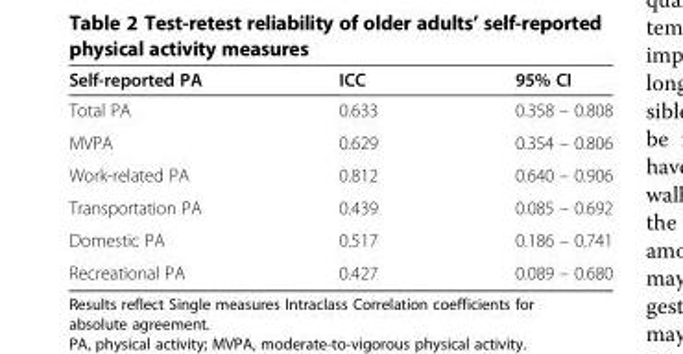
<table><thead><tr><td>Self-reported PA</td><td>ICC</td><td>95% CI</td></tr></thead><tbody><tr><td>Total PA</td><td>0.633</td><td>0.358 – 0.808</td></tr><tr><td>MVPA</td><td>0.629</td><td>0.354 – 0.806</td></tr><tr><td>Work-related PA</td><td>0.812</td><td>0.640 – 0.906</td></tr><tr><td>Transportation PA</td><td>0.439</td><td>0.085 – 0.692</td></tr><tr><td>Domestic PA</td><td>0.517</td><td>0.186 – 0.741</td></tr><tr><td>Recreational PA</td><td>0.427</td><td>0.089 – 0.680</td></tr></tbody></table>